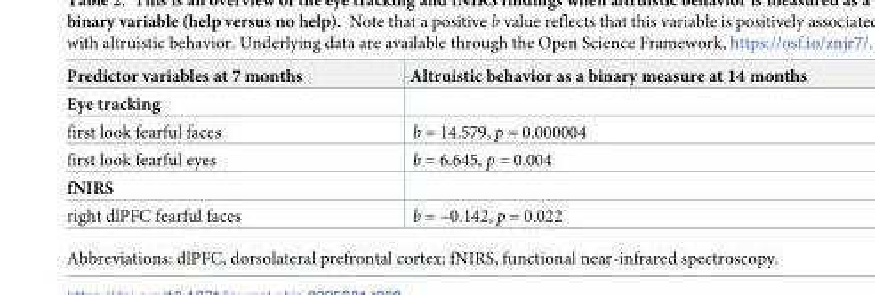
<table><thead><tr><td>Predictor variables at 7 months</td><td>Altruistic behavior as a binary measure at 14 months</td></tr></thead><tbody><tr><td colspan="2">Eye tracking</td></tr><tr><td>first look fearful faces</td><td>b = 14.579, p = 0.000004</td></tr><tr><td>first look fearful eyes</td><td>b = 6.645, p = 0.004</td></tr><tr><td colspan="2">fNIRS</td></tr><tr><td>right dlPFC fearful faces</td><td>b = −0.142, p = 0.022</td></tr></tbody></table>